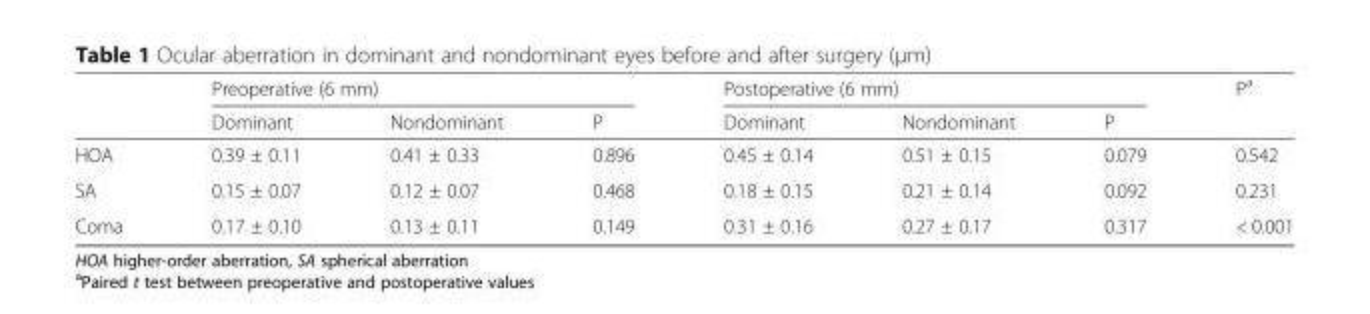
<table><thead><tr><td rowspan="2"></td><td colspan="3">Preoperative (6 mm)</td><td colspan="3">Postoperative (6 mm)</td><td rowspan="2">P<sup>a</sup></td></tr><tr><td>Dominant</td><td>Nondominant</td><td>P</td><td>Dominant</td><td>Nondominant</td><td>P</td></tr></thead><tbody><tr><td>HOA</td><td>0.39 ± 0.11</td><td>0.41 ± 0.33</td><td>0.896</td><td>0.45 ± 0.14</td><td>0.51 ± 0.15</td><td>0.079</td><td>0.542</td></tr><tr><td>SA</td><td>0.15 ± 0.07</td><td>0.12 ± 0.07</td><td>0.468</td><td>0.18 ± 0.15</td><td>0.21 ± 0.14</td><td>0.092</td><td>0.231</td></tr><tr><td>Coma</td><td>0.17 ± 0.10</td><td>0.13 ± 0.11</td><td>0.149</td><td>0.31 ± 0.16</td><td>0.27 ± 0.17</td><td>0.317</td><td>&lt; 0.001</td></tr></tbody></table>